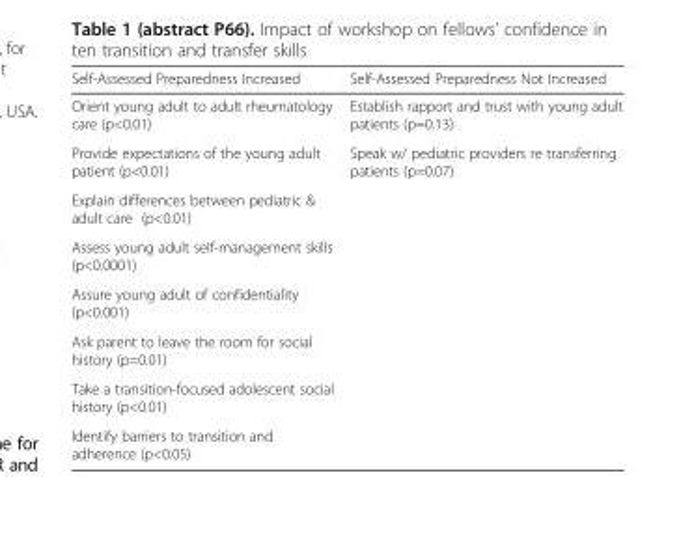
<table><thead><tr><td>Self-Assessed Preparedness Increased</td><td>Self-Assessed Preparedness Not Increased</td></tr></thead><tbody><tr><td>Orient young adult to adult rheumatology care (p&lt;0.01)</td><td>Establish rapport and trust with young adult patients (p=0.13)</td></tr><tr><td>Provide expectations of the young adult patient (p&lt;0.01)</td><td>Speak w/ pediatric providers re transferring patients (p=0.07)</td></tr><tr><td colspan="2">Explain differences between pediatric &amp; adult care (p&lt;0.01)</td></tr><tr><td colspan="2">Assess young adult self-management skills (p&lt;0.0001)</td></tr><tr><td colspan="2">Assure young adult of confidentiality (p&lt;0.001)</td></tr><tr><td colspan="2">Ask parent to leave the room for social history (p=0.01)</td></tr><tr><td colspan="2">Take a transition-focused adolescent social history (p&lt;0.01)</td></tr><tr><td>Identify barriers to transition and adherence (p&lt;0.05)</td><td></td></tr></tbody></table>